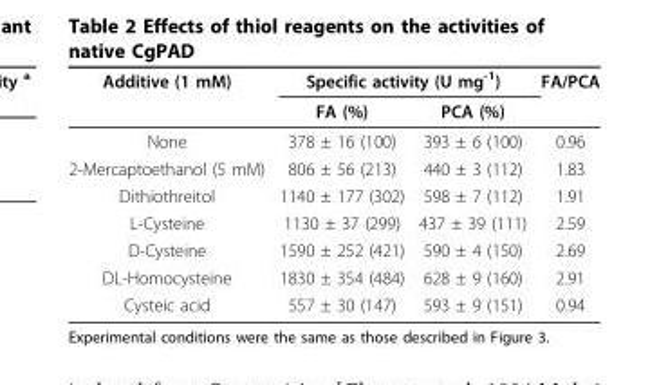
<table><thead><tr><td rowspan="2">Additive (1 mM)</td><td colspan="2">Specific activity (U mg<sup>-1</sup>)</td><td rowspan="2">FA/PCA</td></tr><tr><td>FA (%)</td><td>PCA (%)</td></tr></thead><tbody><tr><td>None</td><td>378 ± 16 (100)</td><td>393 ± 6 (100)</td><td>0.96</td></tr><tr><td>2-Mercaptoethanol (5 mM)</td><td>806 ± 56 (213)</td><td>440 ± 3 (112)</td><td>1.83</td></tr><tr><td>Dithiothreitol</td><td>1140 ± 177 (302)</td><td>598 ± 7 (112)</td><td>1.91</td></tr><tr><td>L-Cysteine</td><td>1130 ± 37 (299)</td><td>437 ± 39 (111)</td><td>2.59</td></tr><tr><td>D-Cysteine</td><td>1590 ± 252 (421)</td><td>590 ± 4 (150)</td><td>2.69</td></tr><tr><td>DL-Homocysteine</td><td>1830 ± 354 (484)</td><td>628 ± 9 (160)</td><td>2.91</td></tr><tr><td>Cysteic acid</td><td>557 ± 30 (147)</td><td>593 ± 9 (151)</td><td>0.94</td></tr></tbody></table>